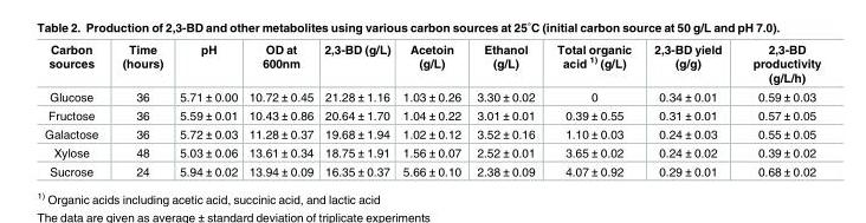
<table><thead><tr><td>Carbon sources</td><td>Time (hours)</td><td>pH</td><td>OD at 600nm</td><td>2,3-BD (g/L)</td><td>Acetoin (g/L)</td><td>Ethanol (g/L)</td><td>Total organic acid <sup>1)</sup> (g/L)</td><td>2,3-BD yield (g/g)</td><td>2,3-BD productivity (g/L/h)</td></tr></thead><tbody><tr><td>Glucose</td><td>36</td><td>5.71 ± 0.00</td><td>10.72 ± 0.45</td><td>21.28 ± 1.16</td><td>1.03 ± 0.26</td><td>3.30 ± 0.02</td><td>0</td><td>0.34 ± 0.01</td><td>0.59 ± 0.03</td></tr><tr><td>Fructose</td><td>36</td><td>5.59 ± 0.01</td><td>10.43 ± 0.86</td><td>20.64 ± 1.70</td><td>1.04 ± 0.22</td><td>3.01 ± 0.01</td><td>0.39 ± 0.55</td><td>0.31 ± 0.01</td><td>0.57 ± 0.05</td></tr><tr><td>Galactose</td><td>36</td><td>5.72 ± 0.03</td><td>11.28 ± 0.37</td><td>19.68 ± 1.94</td><td>1.02 ± 0.12</td><td>3.52 ± 0.16</td><td>1.10 ± 0.03</td><td>0.24 ± 0.03</td><td>0.55 ± 0.05</td></tr><tr><td>Xylose</td><td>48</td><td>5.03 ± 0.06</td><td>13.61 ± 0.34</td><td>18.75 ± 1.91</td><td>1.56 ± 0.07</td><td>2.52 ± 0.01</td><td>3.65 ± 0.02</td><td>0.24 ± 0.02</td><td>0.39 ± 0.02</td></tr><tr><td>Sucrose</td><td>24</td><td>5.94 ± 0.02</td><td>13.94 ± 0.09</td><td>16.35 ± 0.37</td><td>5.66 ± 0.10</td><td>2.38 ± 0.09</td><td>4.07 ± 0.92</td><td>0.29 ± 0.01</td><td>0.68 ± 0.02</td></tr></tbody></table>